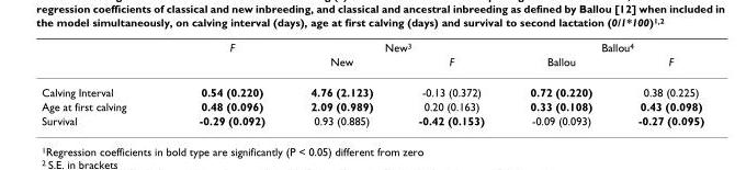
<table><thead><tr><td rowspan="2"></td><td rowspan="2">F</td><td colspan="2">New<sup>3</sup></td><td colspan="2">Ballou<sup>4</sup></td></tr><tr><td>New</td><td>F</td><td>Ballou</td><td>F</td></tr></thead><tbody><tr><td>Calving Interval</td><td>0.54 (0.220)</td><td>4.76 (2.123)</td><td>-0.13 (0.372)</td><td>0.72 (0.220)</td><td>0.38 (0.225)</td></tr><tr><td>Age at first calving</td><td>0.48 (0.096)</td><td>2.09 (0.989)</td><td>0.20 (0.163)</td><td>0.33 (0.108)</td><td>0.43 (0.098)</td></tr><tr><td>Survival</td><td>-0.29 (0.092)</td><td>0.93 (0.885)</td><td>-0.42 (0.153)</td><td>-0.09 (0.093)</td><td>-0.27 (0.095)</td></tr></tbody></table>